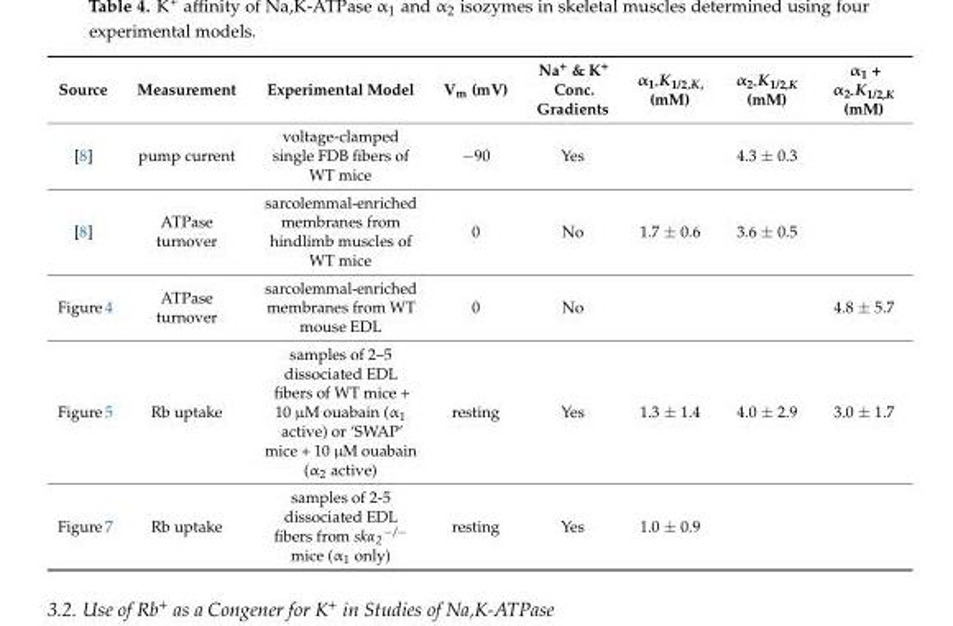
<table><thead><tr><td>Source</td><td>Measurement</td><td>Experimental Model</td><td>V<sub>m</sub> (mV)</td><td>Na<sup>+</sup> &amp; K<sup>+</sup> Conc. Gradients</td><td>α<sub>1-</sub>K<sub>1/2,K,</sub> (mM)</td><td>α<sub>2-</sub>K<sub>1/2,K</sub> (mM)</td><td>α<sub>1</sub> + α<sub>2-</sub>K<sub>1/2,K</sub> (mM)</td></tr></thead><tbody><tr><td>[8]</td><td>pump current</td><td>voltage-clamped single FDB fibers of WT mice</td><td>−90</td><td>Yes</td><td></td><td>4.3 ± 0.3</td><td></td></tr><tr><td>[8]</td><td>ATPase turnover</td><td>sarcolemmal-enriched membranes from hindlimb muscles of WT mice</td><td>0</td><td>No</td><td>1.7 ± 0.6</td><td>3.6 ± 0.5</td><td></td></tr><tr><td>Figure 4</td><td>ATPase turnover</td><td>sarcolemmal-enriched membranes from WT mouse EDL</td><td>0</td><td>No</td><td></td><td></td><td>4.8 ± 5.7</td></tr><tr><td>Figure 5</td><td>Rb uptake</td><td>samples of 2–5 dissociated EDL fibers of WT mice + 10 µM ouabain (α<sub>1</sub> active) or ‘SWAP’ mice + 10 µM ouabain (α<sub>2</sub> active)</td><td>resting</td><td>Yes</td><td>1.3 ± 1.4</td><td>4.0 ± 2.9</td><td>3.0 ± 1.7</td></tr><tr><td>Figure 7</td><td>Rb uptake</td><td>samples of 2-5 dissociated EDL fibers from skα<sub>2</sub><sup>−/−</sup> mice (α<sub>1</sub> only)</td><td>resting</td><td>Yes</td><td>1.0 ± 0.9</td><td></td><td></td></tr></tbody></table>